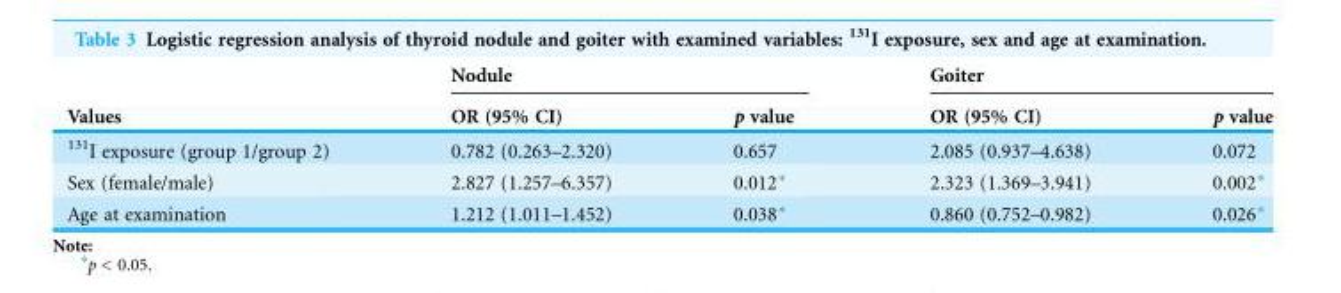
<table><thead><tr><td rowspan="2">Values</td><td colspan="2">Nodule</td><td colspan="2">Goiter</td></tr><tr><td>OR (95% CI)</td><td>p value</td><td>OR (95% CI)</td><td>p value</td></tr></thead><tbody><tr><td><sup>131</sup>I exposure (group 1/group 2)</td><td>0.782 (0.263–2.320)</td><td>0.657</td><td>2.085 (0.937–4.638)</td><td>0.072</td></tr><tr><td>Sex (female/male)</td><td>2.827 (1.257–6.357)</td><td>0.012*</td><td>2.323 (1.369–3.941)</td><td>0.002*</td></tr><tr><td>Age at examination</td><td>1.212 (1.011–1.452)</td><td>0.038*</td><td>0.860 (0.752–0.982)</td><td>0.026*</td></tr></tbody></table>